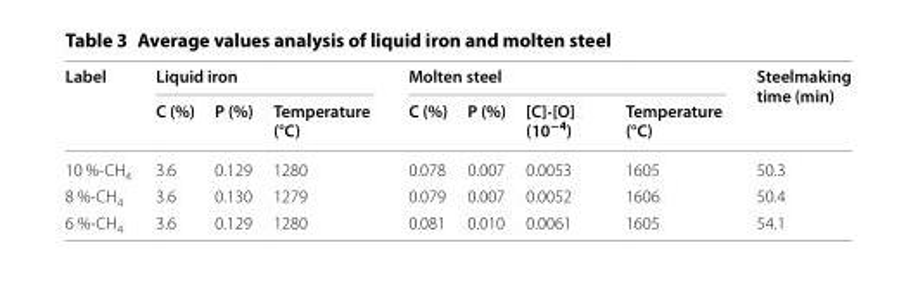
<table><thead><tr><td rowspan="2">Label</td><td colspan="3">Liquid iron</td><td colspan="4">Molten steel</td><td rowspan="2">Steelmaking time (min)</td></tr><tr><td>C (%)</td><td>P (%)</td><td>Temperature (°C)</td><td>C (%)</td><td>P (%)</td><td>[C]·[O] (10<sup>−4</sup>)</td><td>Temperature (°C)</td></tr></thead><tbody><tr><td>10 %‑CH<sub>4</sub></td><td>3.6</td><td>0.129</td><td>1280</td><td>0.078</td><td>0.007</td><td>0.0053</td><td>1605</td><td>50.3</td></tr><tr><td>8 %‑CH<sub>4</sub></td><td>3.6</td><td>0.130</td><td>1279</td><td>0.079</td><td>0.007</td><td>0.0052</td><td>1606</td><td>50.4</td></tr><tr><td>6 %‑CH<sub>4</sub></td><td>3.6</td><td>0.129</td><td>1280</td><td>0.081</td><td>0.010</td><td>0.0061</td><td>1605</td><td>54.1</td></tr></tbody></table>